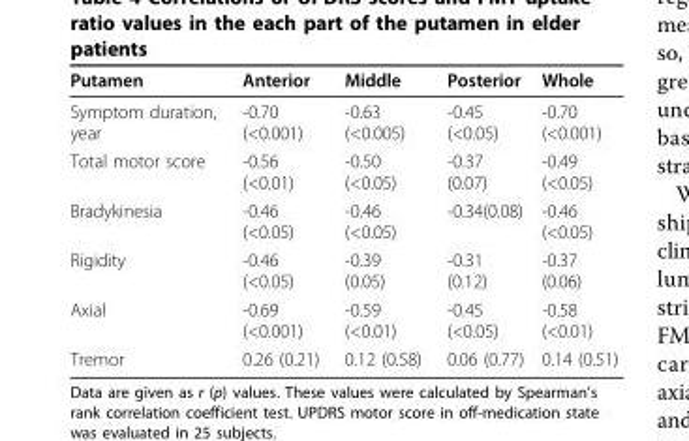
<table><thead><tr><td>Putamen</td><td>Anterior</td><td>Middle</td><td>Posterior</td><td>Whole</td></tr></thead><tbody><tr><td>Symptom duration, year</td><td>-0.70 (&lt;0.001)</td><td>-0.63 (&lt;0.005)</td><td>-0.45 (&lt;0.05)</td><td>-0.70 (&lt;0.001)</td></tr><tr><td>Total motor score</td><td>-0.56 (&lt;0.01)</td><td>-0.50 (&lt;0.05)</td><td>-0.37 (0.07)</td><td>-0.49 (&lt;0.05)</td></tr><tr><td>Bradykinesia</td><td>-0.46 (&lt;0.05)</td><td>-0.46 (&lt;0.05)</td><td>-0.34(0.08)</td><td>-0.46 (&lt;0.05)</td></tr><tr><td>Rigidity</td><td>-0.46 (&lt;0.05)</td><td>-0.39 (0.05)</td><td>-0.31 (0.12)</td><td>-0.37 (0.06)</td></tr><tr><td>Axial</td><td>-0.69 (&lt;0.001)</td><td>-0.59 (&lt;0.01)</td><td>-0.45 (&lt;0.05)</td><td>-0.58 (&lt;0.01)</td></tr><tr><td>Tremor</td><td>0.26 (0.21)</td><td>0.12 (0.58)</td><td>0.06 (0.77)</td><td>0.14 (0.51)</td></tr></tbody></table>